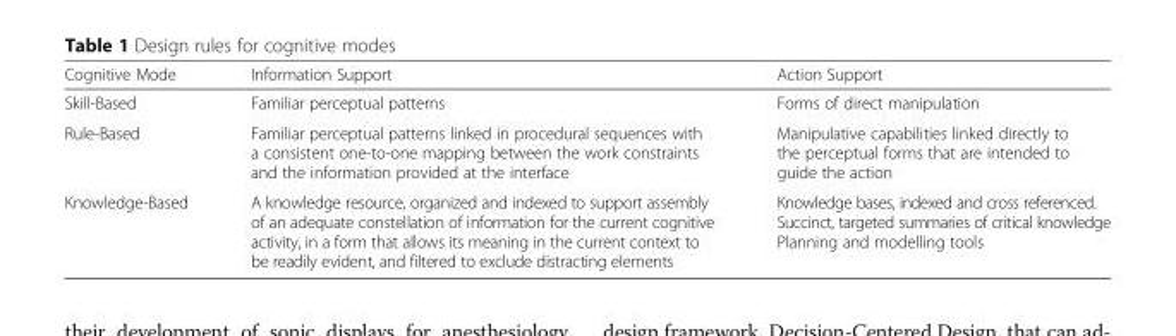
<table><thead><tr><td>Cognitive Mode</td><td>Information Support</td><td>Action Support</td></tr></thead><tbody><tr><td>Skill-Based</td><td>Familiar perceptual patterns</td><td>Forms of direct manipulation</td></tr><tr><td>Rule-Based</td><td>Familiar perceptual patterns linked in procedural sequences with a consistent one-to-one mapping between the work constraints and the information provided at the interface</td><td>Manipulative capabilities linked directly to the perceptual forms that are intended to guide the action</td></tr><tr><td>Knowledge-Based</td><td>A knowledge resource, organized and indexed to support assembly of an adequate constellation of information for the current cognitive activity, in a form that allows its meaning in the current context to be readily evident, and filtered to exclude distracting elements</td><td>Knowledge bases, indexed and cross referenced. Succinct, targeted summaries of critical knowledge Planning and modelling tools</td></tr></tbody></table>